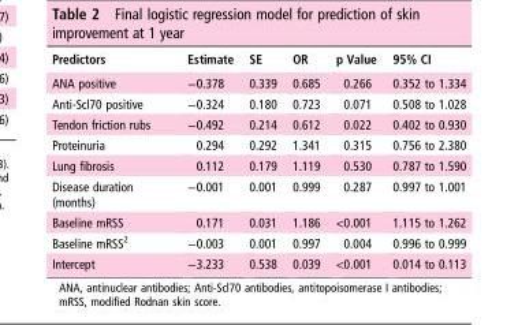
<table><thead><tr><td>Predictors</td><td>Estimate</td><td>SE</td><td>OR</td><td>p Value</td><td>95% CI</td></tr></thead><tbody><tr><td>ANA positive</td><td>−0.378</td><td>0.339</td><td>0.685</td><td>0.266</td><td>0.352 to 1.334</td></tr><tr><td>Anti-Scl70 positive</td><td>−0.324</td><td>0.180</td><td>0.723</td><td>0.071</td><td>0.508 to 1.028</td></tr><tr><td>Tendon friction rubs</td><td>−0.492</td><td>0.214</td><td>0.612</td><td>0.022</td><td>0.402 to 0.930</td></tr><tr><td>Proteinuria</td><td>0.294</td><td>0.292</td><td>1.341</td><td>0.315</td><td>0.756 to 2.380</td></tr><tr><td>Lung fibrosis</td><td>0.112</td><td>0.179</td><td>1.119</td><td>0.530</td><td>0.787 to 1.590</td></tr><tr><td>Disease duration (months)</td><td>−0.001</td><td>0.001</td><td>0.999</td><td>0.287</td><td>0.997 to 1.001</td></tr><tr><td>Baseline mRSS</td><td>0.171</td><td>0.031</td><td>1.186</td><td>&lt;0.001</td><td>1.115 to 1.262</td></tr><tr><td>Baseline mRSS<sup>2</sup></td><td>−0.003</td><td>0.001</td><td>0.997</td><td>0.004</td><td>0.996 to 0.999</td></tr><tr><td>Intercept</td><td>−3.233</td><td>0.538</td><td>0.039</td><td>&lt;0.001</td><td>0.014 to 0.113</td></tr></tbody></table>